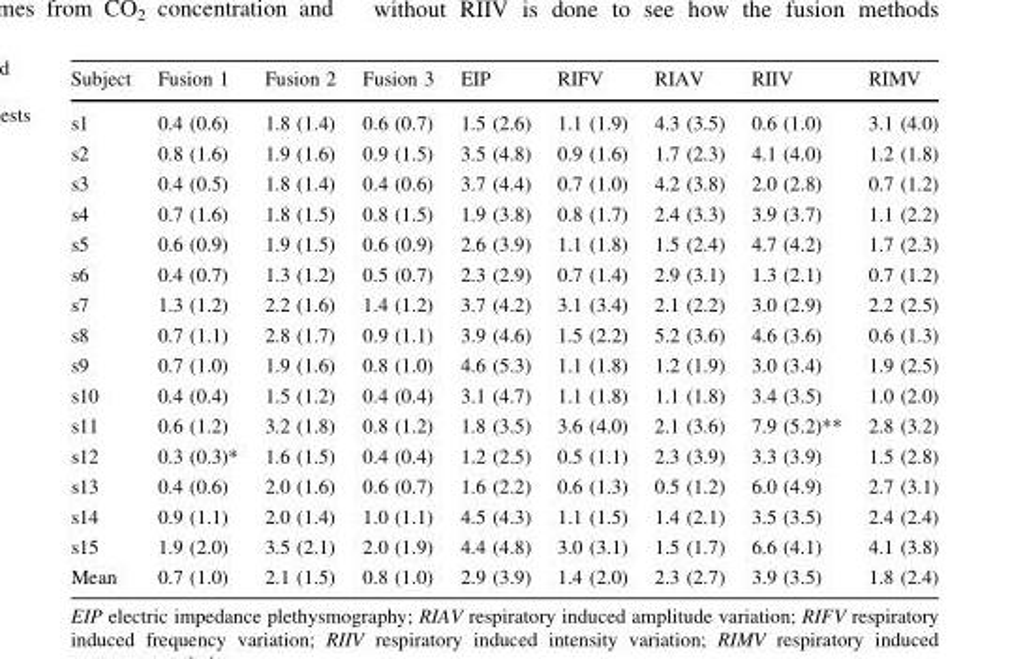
<table><thead><tr><td>Subject</td><td>Fusion 1</td><td>Fusion 2</td><td>Fusion 3</td><td>EIP</td><td>RIFV</td><td>RIAV</td><td>RIIV</td><td>RIMV</td></tr></thead><tbody><tr><td>s1</td><td>0.4 (0.6)</td><td>1.8 (1.4)</td><td>0.6 (0.7)</td><td>1.5 (2.6)</td><td>1.1 (1.9)</td><td>4.3 (3.5)</td><td>0.6 (1.0)</td><td>3.1 (4.0)</td></tr><tr><td>s2</td><td>0.8 (1.6)</td><td>1.9 (1.6)</td><td>0.9 (1.5)</td><td>3.5 (4.8)</td><td>0.9 (1.6)</td><td>1.7 (2.3)</td><td>4.1 (4.0)</td><td>1.2 (1.8)</td></tr><tr><td>s3</td><td>0.4 (0.5)</td><td>1.8 (1.4)</td><td>0.4 (0.6)</td><td>3.7 (4.4)</td><td>0.7 (1.0)</td><td>4.2 (3.8)</td><td>2.0 (2.8)</td><td>0.7 (1.2)</td></tr><tr><td>s4</td><td>0.7 (1.6)</td><td>1.8 (1.5)</td><td>0.8 (1.5)</td><td>1.9 (3.8)</td><td>0.8 (1.7)</td><td>2.4 (3.3)</td><td>3.9 (3.7)</td><td>1.1 (2.2)</td></tr><tr><td>s5</td><td>0.6 (0.9)</td><td>1.9 (1.5)</td><td>0.6 (0.9)</td><td>2.6 (3.9)</td><td>1.1 (1.8)</td><td>1.5 (2.4)</td><td>4.7 (4.2)</td><td>1.7 (2.3)</td></tr><tr><td>s6</td><td>0.4 (0.7)</td><td>1.3 (1.2)</td><td>0.5 (0.7)</td><td>2.3 (2.9)</td><td>0.7 (1.4)</td><td>2.9 (3.1)</td><td>1.3 (2.1)</td><td>0.7 (1.2)</td></tr><tr><td>s7</td><td>1.3 (1.2)</td><td>2.2 (1.6)</td><td>1.4 (1.2)</td><td>3.7 (4.2)</td><td>3.1 (3.4)</td><td>2.1 (2.2)</td><td>3.0 (2.9)</td><td>2.2 (2.5)</td></tr><tr><td>s8</td><td>0.7 (1.1)</td><td>2.8 (1.7)</td><td>0.9 (1.1)</td><td>3.9 (4.6)</td><td>1.5 (2.2)</td><td>5.2 (3.6)</td><td>4.6 (3.6)</td><td>0.6 (1.3)</td></tr><tr><td>s9</td><td>0.7 (1.0)</td><td>1.9 (1.6)</td><td>0.8 (1.0)</td><td>4.6 (5.3)</td><td>1.1 (1.8)</td><td>1.2 (1.9)</td><td>3.0 (3.4)</td><td>1.9 (2.5)</td></tr><tr><td>s10</td><td>0.4 (0.4)</td><td>1.5 (1.2)</td><td>0.4 (0.4)</td><td>3.1 (4.7)</td><td>1.1 (1.8)</td><td>1.1 (1.8)</td><td>3.4 (3.5)</td><td>1.0 (2.0)</td></tr><tr><td>s11</td><td>0.6 (1.2)</td><td>3.2 (1.8)</td><td>0.8 (1.2)</td><td>1.8 (3.5)</td><td>3.6 (4.0)</td><td>2.1 (3.6)</td><td>7.9 (5.2)**</td><td>2.8 (3.2)</td></tr><tr><td>s12</td><td>0.3 (0.3)*</td><td>1.6 (1.5)</td><td>0.4 (0.4)</td><td>1.2 (2.5)</td><td>0.5 (1.1)</td><td>2.3 (3.9)</td><td>3.3 (3.9)</td><td>1.5 (2.8)</td></tr><tr><td>s13</td><td>0.4 (0.6)</td><td>2.0 (1.6)</td><td>0.6 (0.7)</td><td>1.6 (2.2)</td><td>0.6 (1.3)</td><td>0.5 (1.2)</td><td>6.0 (4.9)</td><td>2.7 (3.1)</td></tr><tr><td>s14</td><td>0.9 (1.1)</td><td>2.0 (1.4)</td><td>1.0 (1.1)</td><td>4.5 (4.3)</td><td>1.1 (1.5)</td><td>1.4 (2.1)</td><td>3.5 (3.5)</td><td>2.4 (2.4)</td></tr><tr><td>s15</td><td>1.9 (2.0)</td><td>3.5 (2.1)</td><td>2.0 (1.9)</td><td>4.4 (4.8)</td><td>3.0 (3.1)</td><td>1.5 (1.7)</td><td>6.6 (4.1)</td><td>4.1 (3.8)</td></tr><tr><td>Mean</td><td>0.7 (1.0)</td><td>2.1 (1.5)</td><td>0.8 (1.0)</td><td>2.9 (3.9)</td><td>1.4 (2.0)</td><td>2.3 (2.7)</td><td>3.9 (3.5)</td><td>1.8 (2.4)</td></tr></tbody></table>